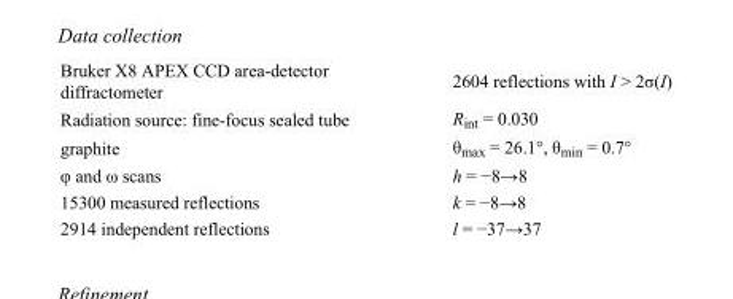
<table><tbody><tr><td>Bruker X8 APEX CCD area-detector diffractometer</td><td>2604 reflections with I &gt; 2σ(I)</td></tr><tr><td>Radiation source: fine-focus sealed tube</td><td>R<sub>int</sub> = 0.030</td></tr><tr><td>graphite</td><td>θ<sub>max</sub> = 26.1°, θ<sub>min</sub> = 0.7°</td></tr><tr><td>φ and ω scans</td><td>h = −8→8</td></tr><tr><td>15300 measured reflections</td><td>k = −8→8</td></tr><tr><td>2914 independent reflections</td><td>l = −37→37</td></tr></tbody></table>